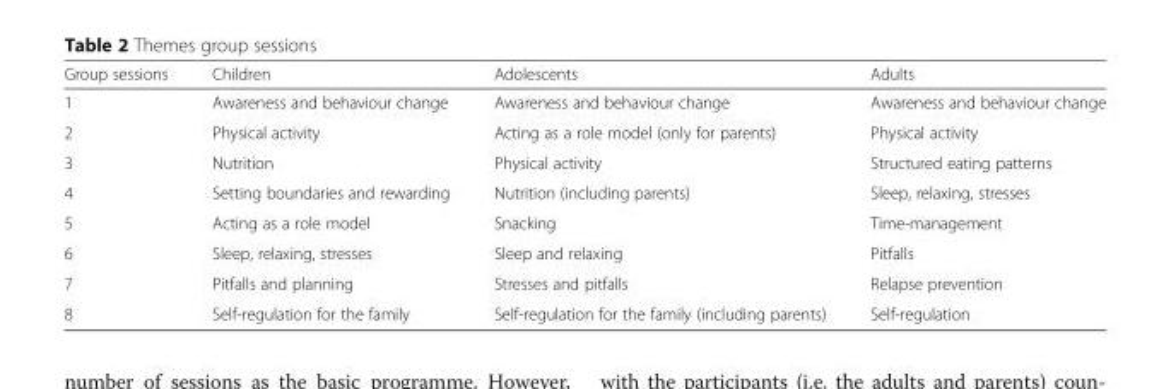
<table><thead><tr><td>Group sessions</td><td>Children</td><td>Adolescents</td><td>Adults</td></tr></thead><tbody><tr><td>1</td><td>Awareness and behaviour change</td><td>Awareness and behaviour change</td><td>Awareness and behaviour change</td></tr><tr><td>2</td><td>Physical activity</td><td>Acting as a role model (only for parents)</td><td>Physical activity</td></tr><tr><td>3</td><td>Nutrition</td><td>Physical activity</td><td>Structured eating patterns</td></tr><tr><td>4</td><td>Setting boundaries and rewarding</td><td>Nutrition (including parents)</td><td>Sleep, relaxing, stresses</td></tr><tr><td>5</td><td>Acting as a role model</td><td>Snacking</td><td>Time-management</td></tr><tr><td>6</td><td>Sleep, relaxing, stresses</td><td>Sleep and relaxing</td><td>Pitfalls</td></tr><tr><td>7</td><td>Pitfalls and planning</td><td>Stresses and pitfalls</td><td>Relapse prevention</td></tr><tr><td>8</td><td>Self-regulation for the family</td><td>Self-regulation for the family (including parents)</td><td>Self-regulation</td></tr></tbody></table>